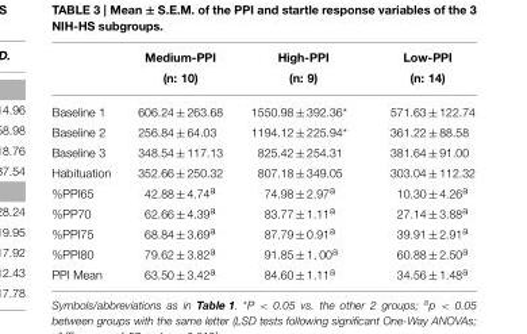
<table><thead><tr><td></td><td>Medium-PPI (n: 10)</td><td>High-PPI (n: 9)</td><td>Low-PPI (n: 14)</td></tr></thead><tbody><tr><td>Baseline 1</td><td>606.24 ± 263.68</td><td>1550.98 ± 392.36*</td><td>571.63 ± 122.74</td></tr><tr><td>Baseline 2</td><td>256.84 ± 64.03</td><td>1194.12 ± 225.94*</td><td>361.22 ± 88.58</td></tr><tr><td>Baseline 3</td><td>348.54 ± 117.13</td><td>825.42 ± 254.31</td><td>381.64 ± 91.00</td></tr><tr><td>Habituation</td><td>352.66 ± 250.32</td><td>807.18 ± 349.05</td><td>303.04 ± 112.32</td></tr><tr><td>%PPI65</td><td>42.88 ± 4.74<sup>a</sup></td><td>74.98 ± 2.97<sup>a</sup></td><td>10.30 ± 4.26<sup>a</sup></td></tr><tr><td>%PP70</td><td>62.66 ± 4.39<sup>a</sup></td><td>83.77 ± 1.11<sup>a</sup></td><td>27.14 ± 3.88<sup>a</sup></td></tr><tr><td>%PPI75</td><td>68.84 ± 3.69<sup>a</sup></td><td>87.79 ± 0.91<sup>a</sup></td><td>39.91 ± 2.91<sup>a</sup></td></tr><tr><td>%PPI80</td><td>79.62 ± 3.82<sup>a</sup></td><td>91.85 ± 1, 00<sup>a</sup></td><td>60.88 ± 2.50<sup>a</sup></td></tr><tr><td>PPI Mean</td><td>63.50 ± 3.42<sup>a</sup></td><td>84.60 ± 1.11<sup>a</sup></td><td>34.56 ± 1.48<sup>a</sup></td></tr></tbody></table>